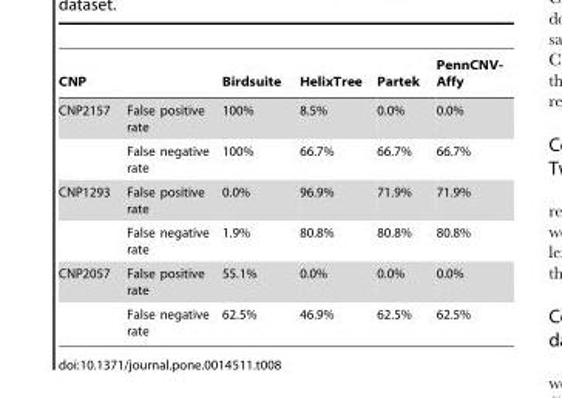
<table><thead><tr><td>CNP</td><td></td><td>Birdsuite</td><td>HelixTree</td><td>Partek</td><td>PennCNV- Affy</td></tr></thead><tbody><tr><td rowspan="2">CNP2157</td><td>False positive rate</td><td>100%</td><td>8.5%</td><td>0.0%</td><td>0.0%</td></tr><tr><td>False negative rate</td><td>100%</td><td>66.7%</td><td>66.7%</td><td>66.7%</td></tr><tr><td rowspan="2">CNP1293</td><td>False positive rate</td><td>0.0%</td><td>96.9%</td><td>71.9%</td><td>71.9%</td></tr><tr><td>False negative rate</td><td>1.9%</td><td>80.8%</td><td>80.8%</td><td>80.8%</td></tr><tr><td rowspan="2">CNP2057</td><td>False positive rate</td><td>55.1%</td><td>0.0%</td><td>0.0%</td><td>0.0%</td></tr><tr><td>False negative rate</td><td>62.5%</td><td>46.9%</td><td>62.5%</td><td>62.5%</td></tr></tbody></table>